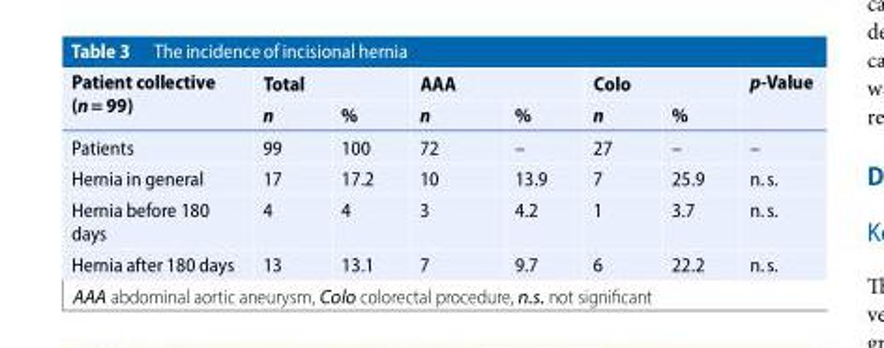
<table><thead><tr><td rowspan="2">Patient collective (n= 99)</td><td colspan="2">Total</td><td colspan="2">AAA</td><td colspan="2">Colo</td><td rowspan="2">p-Value</td></tr><tr><td>n</td><td>%</td><td>n</td><td>%</td><td>n</td><td>%</td></tr></thead><tbody><tr><td>Patients</td><td>99</td><td>100</td><td>72</td><td>–</td><td>27</td><td>–</td><td>–</td></tr><tr><td>Hernia in general</td><td>17</td><td>17.2</td><td>10</td><td>13.9</td><td>7</td><td>25.9</td><td>n.s.</td></tr><tr><td>Hernia before 180 days</td><td>4</td><td>4</td><td>3</td><td>4.2</td><td>1</td><td>3.7</td><td>n.s.</td></tr><tr><td>Hernia after 180 days</td><td>13</td><td>13.1</td><td>7</td><td>9.7</td><td>6</td><td>22.2</td><td>n.s.</td></tr></tbody></table>